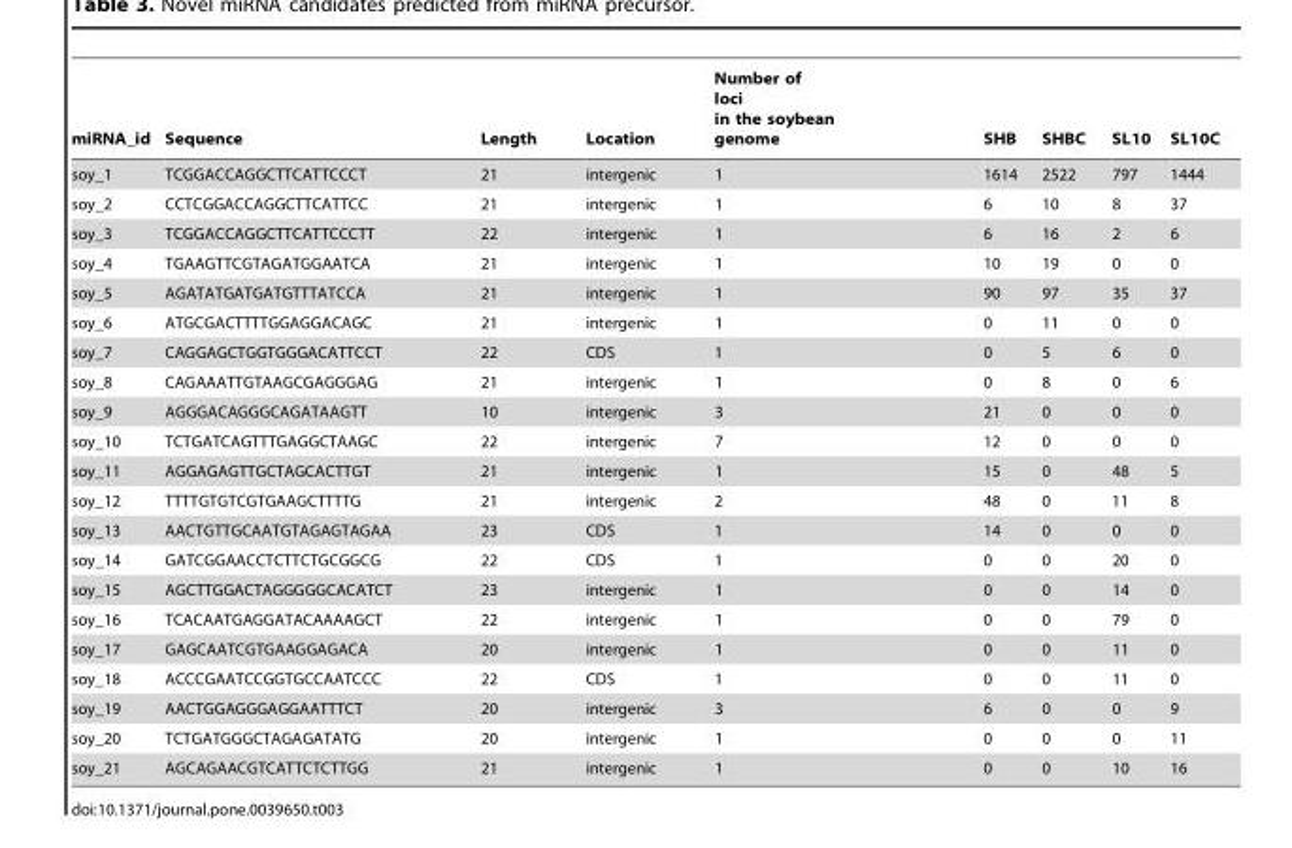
<table><thead><tr><td>miRNA_id</td><td>Sequence</td><td>Length</td><td>Location</td><td>Number of loci in the soybean genome</td><td>SHB</td><td>SHBC</td><td>SL10</td><td>SL10C</td></tr></thead><tbody><tr><td>soy_1</td><td>TCGGACCAGGCTTCATTCCCT</td><td>21</td><td>intergenic</td><td>1</td><td>1614</td><td>2522</td><td>797</td><td>1444</td></tr><tr><td>soy_2</td><td>CCTCGGACCAGGCTTCATTCC</td><td>21</td><td>intergenic</td><td>1</td><td>6</td><td>10</td><td>8</td><td>37</td></tr><tr><td>soy_3</td><td>TCGGACCAGGCTTCATTCCCTT</td><td>22</td><td>intergenic</td><td>1</td><td>6</td><td>16</td><td>2</td><td>6</td></tr><tr><td>soy_4</td><td>TGAAGTTCGTAGATGGAATCA</td><td>21</td><td>intergenic</td><td>1</td><td>10</td><td>19</td><td>0</td><td>0</td></tr><tr><td>soy_5</td><td>AGATATGATGATGTTTATCCA</td><td>21</td><td>intergenic</td><td>1</td><td>90</td><td>97</td><td>35</td><td>37</td></tr><tr><td>soy_6</td><td>ATGCGACTTTTGGAGGACAGC</td><td>21</td><td>intergenic</td><td>1</td><td>0</td><td>11</td><td>0</td><td>0</td></tr><tr><td>soy_7</td><td>CAGGAGCTGGTGGGACATTCCT</td><td>22</td><td>CDS</td><td>1</td><td>0</td><td>5</td><td>6</td><td>0</td></tr><tr><td>soy_8</td><td>CAGAAATTGTAAGCGAGGGAG</td><td>21</td><td>intergenic</td><td>1</td><td>0</td><td>8</td><td>0</td><td>6</td></tr><tr><td>soy_9</td><td>AGGGACAGGGCAGATAAGTT</td><td>10</td><td>intergenic</td><td>3</td><td>21</td><td>0</td><td>0</td><td>0</td></tr><tr><td>soy_10</td><td>TCTGATCAGTTTGAGGCTAAGC</td><td>22</td><td>intergenic</td><td>7</td><td>12</td><td>0</td><td>0</td><td>0</td></tr><tr><td>soy_11</td><td>AGGAGAGTTGCTAGCACTTGT</td><td>21</td><td>intergenic</td><td>1</td><td>15</td><td>0</td><td>48</td><td>5</td></tr><tr><td>soy_12</td><td>TTTTGTGTCGTGAAGCTTTTG</td><td>21</td><td>intergenic</td><td>2</td><td>48</td><td>0</td><td>11</td><td>8</td></tr><tr><td>soy_13</td><td>AACTGTTGCAATGTAGAGTAGAA</td><td>23</td><td>CDS</td><td>1</td><td>14</td><td>0</td><td>0</td><td>0</td></tr><tr><td>soy_14</td><td>GATCGGAACCTCTTCTGCGGCG</td><td>22</td><td>CDS</td><td>1</td><td>0</td><td>0</td><td>20</td><td>0</td></tr><tr><td>soy_15</td><td>AGCTTGGACTAGGGGGCACATCT</td><td>23</td><td>intergenic</td><td>1</td><td>0</td><td>0</td><td>14</td><td>0</td></tr><tr><td>soy_16</td><td>TCACAATGAGGATACAAAAGCT</td><td>22</td><td>intergenic</td><td>1</td><td>0</td><td>0</td><td>79</td><td>0</td></tr><tr><td>soy_17</td><td>GAGCAATCGTGAAGGAGACA</td><td>20</td><td>intergenic</td><td>1</td><td>0</td><td>0</td><td>11</td><td>0</td></tr><tr><td>soy_18</td><td>ACCCGAATCCGGTGCCAATCCC</td><td>22</td><td>CDS</td><td>1</td><td>0</td><td>0</td><td>11</td><td>0</td></tr><tr><td>soy_19</td><td>AACTGGAGGGAGGAATTTCT</td><td>20</td><td>intergenic</td><td>3</td><td>6</td><td>0</td><td>0</td><td>9</td></tr><tr><td>soy_20</td><td>TCTGATGGGCTAGAGATATG</td><td>20</td><td>intergenic</td><td>1</td><td>0</td><td>0</td><td>0</td><td>11</td></tr><tr><td>soy_21</td><td>AGCAGAACGTCATTCTCTTGG</td><td>21</td><td>intergenic</td><td>1</td><td>0</td><td>0</td><td>10</td><td>16</td></tr></tbody></table>